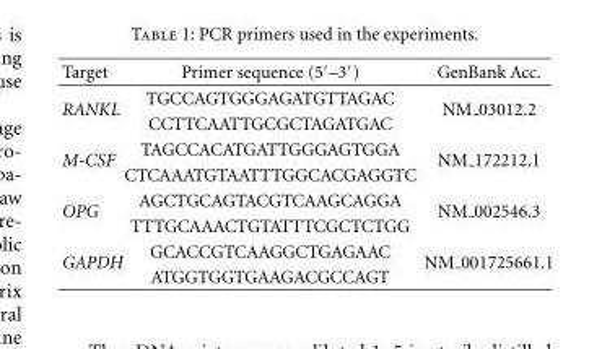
<table><thead><tr><td>Target</td><td>Primer sequence (5′–3′)</td><td>GenBank Acc.</td></tr></thead><tbody><tr><td rowspan="2">RANKL</td><td>TGCCAGTGGGAGATGTTAGAC</td><td rowspan="2">NM 03012.2</td></tr><tr><td>CCTTCAATTGCGCTAGATGAC</td></tr><tr><td rowspan="2">M-CSF</td><td>TAGCCACATGATTGGGAGTGGA</td><td rowspan="2">NM 172212.1</td></tr><tr><td>CTCAAATGTAATTTGGCACGAGGTC</td></tr><tr><td rowspan="2">OPG</td><td>AGCTGCAGTACGTCAAGCAGGA</td><td rowspan="2">NM 002546.3</td></tr><tr><td>TTTGCAAACTGTATTTCGCTCTGG</td></tr><tr><td rowspan="2">GAPDH</td><td>GCACCGTCAAGGCTGAGAAC</td><td rowspan="2">NM 001725661.1</td></tr><tr><td>ATGGTGGTGAAGACGCCAGT</td></tr></tbody></table>